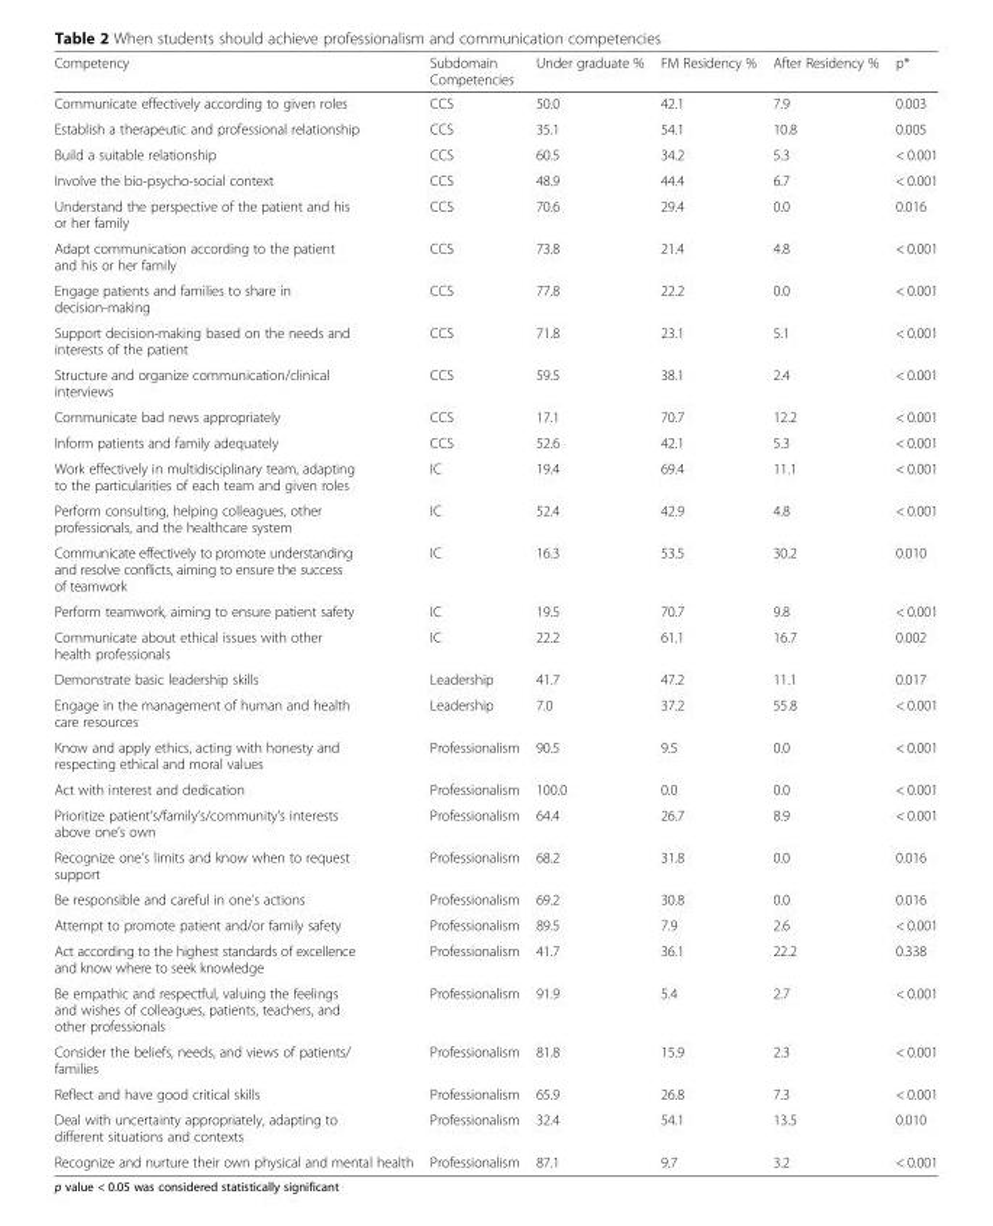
<table><thead><tr><td>Competency</td><td>Subdomain Competencies</td><td>Under graduate %</td><td>FM Residency %</td><td>After Residency %</td><td>p*</td></tr></thead><tbody><tr><td>Communicate effectively according to given roles</td><td>CCS</td><td>50.0</td><td>42.1</td><td>7.9</td><td>0.003</td></tr><tr><td>Establish a therapeutic and professional relationship</td><td>CCS</td><td>35.1</td><td>54.1</td><td>10.8</td><td>0.005</td></tr><tr><td>Build a suitable relationship</td><td>CCS</td><td>60.5</td><td>34.2</td><td>5.3</td><td>&lt; 0.001</td></tr><tr><td>Involve the bio-psycho-social context</td><td>CCS</td><td>48.9</td><td>44.4</td><td>6.7</td><td>&lt; 0.001</td></tr><tr><td>Understand the perspective of the patient and his or her family</td><td>CCS</td><td>70.6</td><td>29.4</td><td>0.0</td><td>0.016</td></tr><tr><td>Adapt communication according to the patient and his or her family</td><td>CCS</td><td>73.8</td><td>21.4</td><td>4.8</td><td>&lt; 0.001</td></tr><tr><td>Engage patients and families to share in decision-making</td><td>CCS</td><td>77.8</td><td>22.2</td><td>0.0</td><td>&lt; 0.001</td></tr><tr><td>Support decision-making based on the needs and interests of the patient</td><td>CCS</td><td>71.8</td><td>23.1</td><td>5.1</td><td>&lt; 0.001</td></tr><tr><td>Structure and organize communication/clinical interviews</td><td>CCS</td><td>59.5</td><td>38.1</td><td>2.4</td><td>&lt; 0.001</td></tr><tr><td>Communicate bad news appropriately</td><td>CCS</td><td>17.1</td><td>70.7</td><td>12.2</td><td>&lt; 0.001</td></tr><tr><td>Inform patients and family adequately</td><td>CCS</td><td>52.6</td><td>42.1</td><td>5.3</td><td>&lt; 0.001</td></tr><tr><td>Work effectively in multidisciplinary team, adapting to the particularities of each team and given roles</td><td>IC</td><td>19.4</td><td>69.4</td><td>11.1</td><td>&lt; 0.001</td></tr><tr><td>Perform consulting, helping colleagues, other professionals, and the healthcare system</td><td>IC</td><td>52.4</td><td>42.9</td><td>4.8</td><td>&lt; 0.001</td></tr><tr><td>Communicate effectively to promote understanding and resolve conflicts, aiming to ensure the success of teamwork</td><td>IC</td><td>16.3</td><td>53.5</td><td>30.2</td><td>0.010</td></tr><tr><td>Perform teamwork, aiming to ensure patient safety</td><td>IC</td><td>19.5</td><td>70.7</td><td>9.8</td><td>&lt; 0.001</td></tr><tr><td>Communicate about ethical issues with other health professionals</td><td>IC</td><td>22.2</td><td>61.1</td><td>16.7</td><td>0.002</td></tr><tr><td>Demonstrate basic leadership skills</td><td>Leadership</td><td>41.7</td><td>47.2</td><td>11.1</td><td>0.017</td></tr><tr><td>Engage in the management of human and health care resources</td><td>Leadership</td><td>7.0</td><td>37.2</td><td>55.8</td><td>&lt; 0.001</td></tr><tr><td>Know and apply ethics, acting with honesty and respecting ethical and moral values</td><td>Professionalism</td><td>90.5</td><td>9.5</td><td>0.0</td><td>&lt; 0.001</td></tr><tr><td>Act with interest and dedication</td><td>Professionalism</td><td>100.0</td><td>0.0</td><td>0.0</td><td>&lt; 0.001</td></tr><tr><td>Prioritize patient’s/family’s/community’s interests above one’s own</td><td>Professionalism</td><td>64.4</td><td>26.7</td><td>8.9</td><td>&lt; 0.001</td></tr><tr><td>Recognize one’s limits and know when to request support</td><td>Professionalism</td><td>68.2</td><td>31.8</td><td>0.0</td><td>0.016</td></tr><tr><td>Be responsible and careful in one’s actions</td><td>Professionalism</td><td>69.2</td><td>30.8</td><td>0.0</td><td>0.016</td></tr><tr><td>Attempt to promote patient and/or family safety</td><td>Professionalism</td><td>89.5</td><td>7.9</td><td>2.6</td><td>&lt; 0.001</td></tr><tr><td>Act according to the highest standards of excellence and know where to seek knowledge</td><td>Professionalism</td><td>41.7</td><td>36.1</td><td>22.2</td><td>0.338</td></tr><tr><td>Be empathic and respectful, valuing the feelings and wishes of colleagues, patients, teachers, and other professionals</td><td>Professionalism</td><td>91.9</td><td>5.4</td><td>2.7</td><td>&lt; 0.001</td></tr><tr><td>Consider the beliefs, needs, and views of patients/ families</td><td>Professionalism</td><td>81.8</td><td>15.9</td><td>2.3</td><td>&lt; 0.001</td></tr><tr><td>Reflect and have good critical skills</td><td>Professionalism</td><td>65.9</td><td>26.8</td><td>7.3</td><td>&lt; 0.001</td></tr><tr><td>Deal with uncertainty appropriately, adapting to different situations and contexts</td><td>Professionalism</td><td>32.4</td><td>54.1</td><td>13.5</td><td>0.010</td></tr><tr><td>Recognize and nurture their own physical and mental health</td><td>Professionalism</td><td>87.1</td><td>9.7</td><td>3.2</td><td>&lt; 0.001</td></tr></tbody></table>